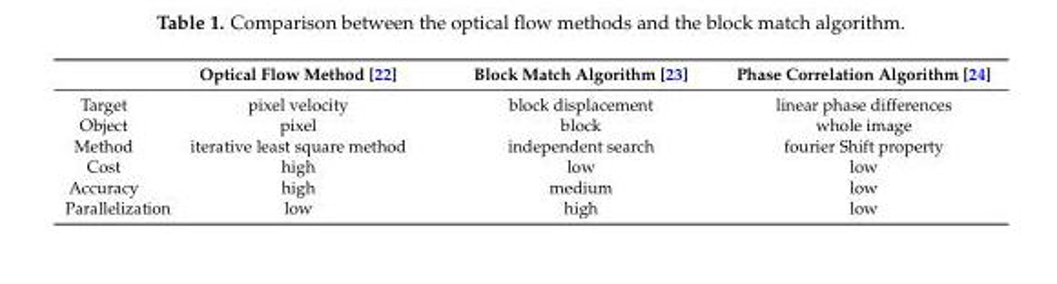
<table><thead><tr><td></td><td>Optical Flow Method [22]</td><td>Block Match Algorithm [23]</td><td>Phase Correlation Algorithm [24]</td></tr></thead><tbody><tr><td>Target</td><td>pixel velocity</td><td>block displacement</td><td>linear phase differences</td></tr><tr><td>Object</td><td>pixel</td><td>block</td><td>whole image</td></tr><tr><td>Method</td><td>iterative least square method</td><td>independent search</td><td>fourier Shift property</td></tr><tr><td>Cost</td><td>high</td><td>low</td><td>low</td></tr><tr><td>Accuracy</td><td>high</td><td>medium</td><td>low</td></tr><tr><td>Parallelization</td><td>low</td><td>high</td><td>low</td></tr></tbody></table>